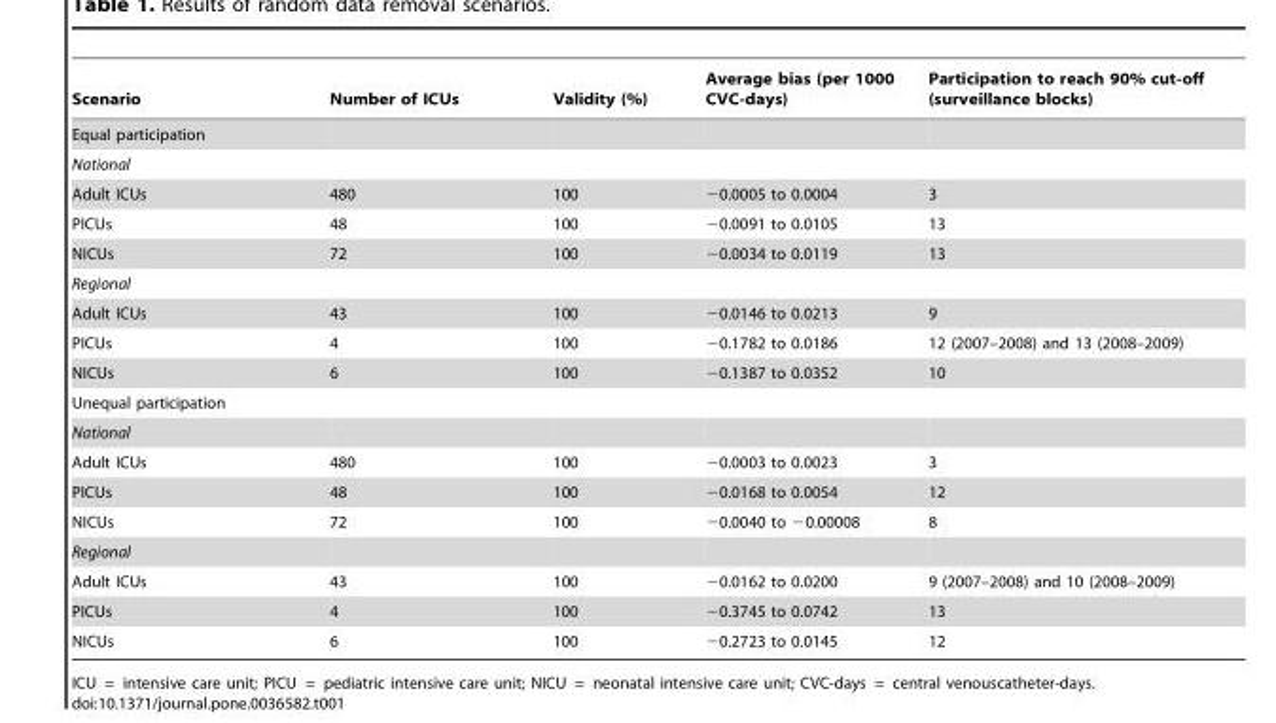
<table><thead><tr><td>Scenario</td><td>Number of ICUs</td><td>Validity (%)</td><td>Average bias (per 1000 CVC-days)</td><td>Participation to reach 90% cut-off (surveillance blocks)</td></tr></thead><tbody><tr><td colspan="5">Equal participation</td></tr><tr><td colspan="5">National</td></tr><tr><td>Adult ICUs</td><td>480</td><td>100</td><td>−0.0005 to 0.0004</td><td>3</td></tr><tr><td>PICUs</td><td>48</td><td>100</td><td>−0.0091 to 0.0105</td><td>13</td></tr><tr><td>NICUs</td><td>72</td><td>100</td><td>−0.0034 to 0.0119</td><td>13</td></tr><tr><td colspan="5">Regional</td></tr><tr><td>Adult ICUs</td><td>43</td><td>100</td><td>−0.0146 to 0.0213</td><td>9</td></tr><tr><td>PICUs</td><td>4</td><td>100</td><td>−0.1782 to 0.0186</td><td>12 (2007–2008) and 13 (2008–2009)</td></tr><tr><td>NICUs</td><td>6</td><td>100</td><td>−0.1387 to 0.0352</td><td>10</td></tr><tr><td colspan="5">Unequal participation</td></tr><tr><td colspan="5">National</td></tr><tr><td>Adult ICUs</td><td>480</td><td>100</td><td>−0.0003 to 0.0023</td><td>3</td></tr><tr><td>PICUs</td><td>48</td><td>100</td><td>−0.0168 to 0.0054</td><td>12</td></tr><tr><td>NICUs</td><td>72</td><td>100</td><td>−0.0040 to −0.00008</td><td>8</td></tr><tr><td colspan="5">Regional</td></tr><tr><td>Adult ICUs</td><td>43</td><td>100</td><td>−0.0162 to 0.0200</td><td>9 (2007–2008) and 10 (2008–2009)</td></tr><tr><td>PICUs</td><td>4</td><td>100</td><td>−0.3745 to 0.0742</td><td>13</td></tr><tr><td>NICUs</td><td>6</td><td>100</td><td>−0.2723 to 0.0145</td><td>12</td></tr></tbody></table>